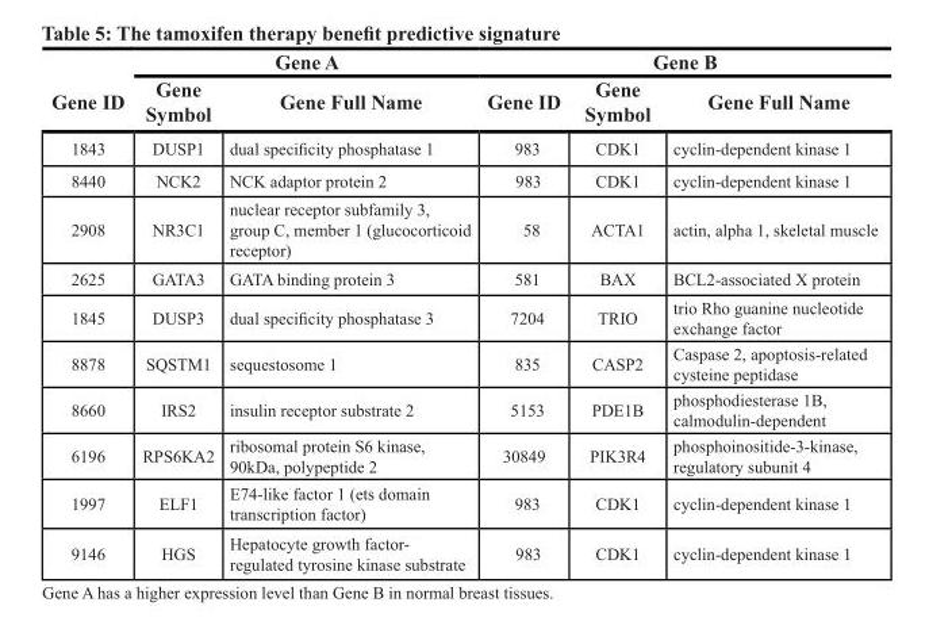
<table><thead><tr><td rowspan="2">Gene ID</td><td colspan="2">Gene A</td><td rowspan="2">Gene ID</td><td colspan="2">Gene B</td></tr><tr><td>Gene Symbol</td><td>Gene Full Name</td><td>Gene Symbol</td><td>Gene Full Name</td></tr></thead><tbody><tr><td>1843</td><td>DUSP1</td><td>dual specificity phosphatase 1</td><td>983</td><td>CDK1</td><td>cyclin-dependent kinase 1</td></tr><tr><td>8440</td><td>NCK2</td><td>NCK adaptor protein 2</td><td>983</td><td>CDK1</td><td>cyclin-dependent kinase 1</td></tr><tr><td>2908</td><td>NR3C1</td><td>nuclear receptor subfamily 3, group C, member 1 (glucocorticoid receptor)</td><td>58</td><td>ACTA1</td><td>actin, alpha 1, skeletal muscle</td></tr><tr><td>2625</td><td>GATA3</td><td>GATA binding protein 3</td><td>581</td><td>BAX</td><td>BCL2-associated X protein</td></tr><tr><td>1845</td><td>DUSP3</td><td>dual specificity phosphatase 3</td><td>7204</td><td>TRIO</td><td>trio Rho guanine nucleotide exchange factor</td></tr><tr><td>8878</td><td>SQSTM1</td><td>sequestosome 1</td><td>835</td><td>CASP2</td><td>Caspase 2, apoptosis-related cysteine peptidase</td></tr><tr><td>8660</td><td>IRS2</td><td>insulin receptor substrate 2</td><td>5153</td><td>PDE1B</td><td>phosphodiesterase 1B, calmodulin-dependent</td></tr><tr><td>6196</td><td>RPS6KA2</td><td>ribosomal protein S6 kinase, 90kDa, polypeptide 2</td><td>30849</td><td>PIK3R4</td><td>phosphoinositide-3-kinase, regulatory subunit 4</td></tr><tr><td>1997</td><td>ELF1</td><td>E74-like factor 1 (ets domain transcription factor)</td><td>983</td><td>CDK1</td><td>cyclin-dependent kinase 1</td></tr><tr><td>9146</td><td>HGS</td><td>Hepatocyte growth factor- regulated tyrosine kinase substrate</td><td>983</td><td>CDK1</td><td>cyclin-dependent kinase 1</td></tr></tbody></table>